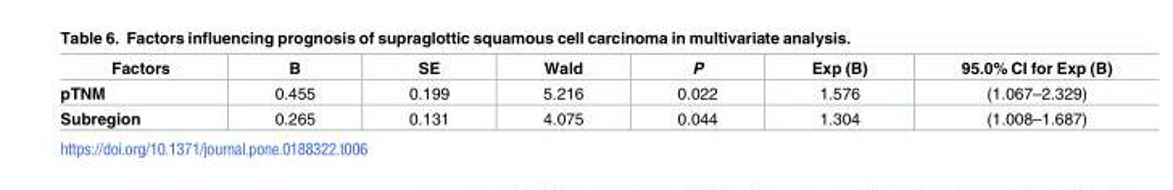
<table><thead><tr><td>Factors</td><td>B</td><td>SE</td><td>Wald</td><td>P</td><td>Exp (B)</td><td>95.0% CI for Exp (B)</td></tr></thead><tbody><tr><td>pTNM</td><td>0.455</td><td>0.199</td><td>5.216</td><td>0.022</td><td>1.576</td><td>(1.067–2.329)</td></tr><tr><td>Subregion</td><td>0.265</td><td>0.131</td><td>4.075</td><td>0.044</td><td>1.304</td><td>(1.008–1.687)</td></tr></tbody></table>